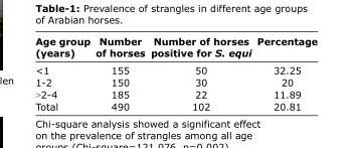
<table><thead><tr><td>Age group (years)</td><td>Number of horses</td><td>Number of horses positive for S. equi</td><td>Percentage</td></tr></thead><tbody><tr><td>&lt;1</td><td>155</td><td>50</td><td>32.25</td></tr><tr><td>1-2</td><td>150</td><td>30</td><td>20</td></tr><tr><td>˃2-4</td><td>185</td><td>22</td><td>11.89</td></tr><tr><td>Total</td><td>490</td><td>102</td><td>20.81</td></tr></tbody></table>